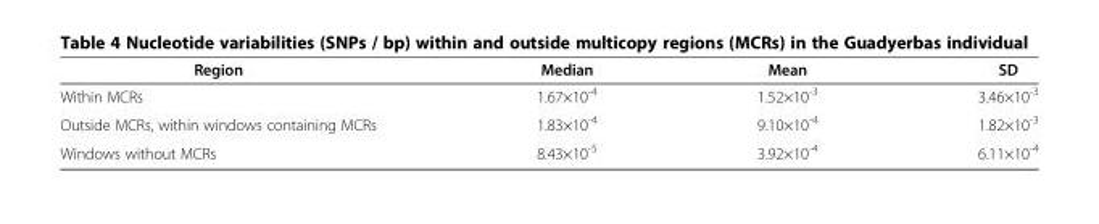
<table><thead><tr><td>Region</td><td>Median</td><td>Mean</td><td>SD</td></tr></thead><tbody><tr><td>Within MCRs</td><td>1.67×10<sup>-4</sup></td><td>1.52×10<sup>-3</sup></td><td>3.46×10<sup>-3</sup></td></tr><tr><td>Outside MCRs, within windows containing MCRs</td><td>1.83×10<sup>-4</sup></td><td>9.10×10<sup>-4</sup></td><td>1.82×10<sup>-3</sup></td></tr><tr><td>Windows without MCRs</td><td>8.43×10<sup>-5</sup></td><td>3.92×10<sup>-4</sup></td><td>6.11×10<sup>-4</sup></td></tr></tbody></table>